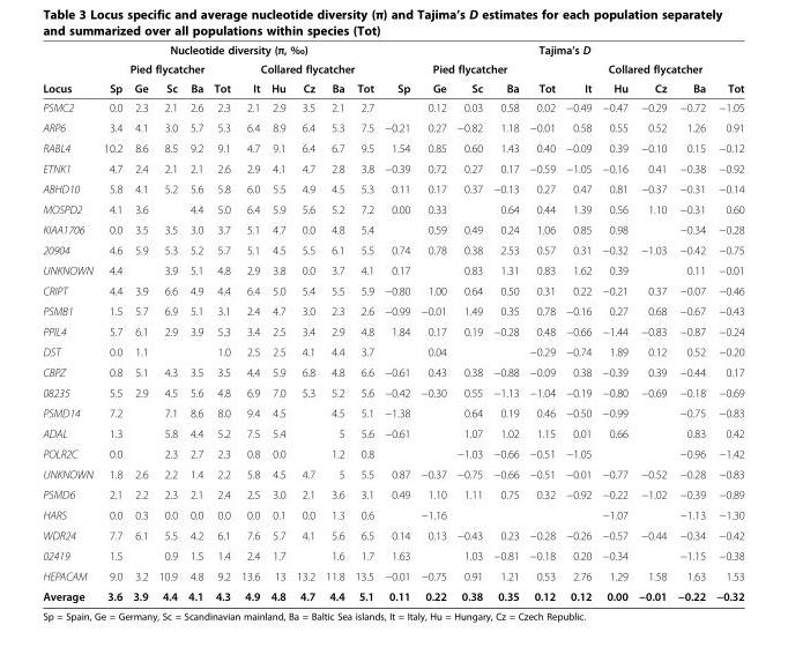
<table><thead><tr><td rowspan="3">Locus</td><td colspan="10">Nucleotide diversity (π, ‰)</td><td colspan="10">Tajima’s D</td></tr><tr><td colspan="5">Pied flycatcher</td><td colspan="5">Collared flycatcher</td><td colspan="5">Pied flycatcher</td><td colspan="5">Collared flycatcher</td></tr><tr><td>Sp</td><td>Ge</td><td>Sc</td><td>Ba</td><td>Tot</td><td>It</td><td>Hu</td><td>Cz</td><td>Ba</td><td>Tot</td><td>Sp</td><td>Ge</td><td>Sc</td><td>Ba</td><td>Tot</td><td>It</td><td>Hu</td><td>Cz</td><td>Ba</td><td>Tot</td></tr></thead><tbody><tr><td>PSMC2</td><td>0.0</td><td>2.3</td><td>2.1</td><td>2.6</td><td>2.3</td><td>2.1</td><td>2.9</td><td>3.5</td><td>2.1</td><td>2.7</td><td></td><td>0.12</td><td>0.03</td><td>0.58</td><td>0.02</td><td>−0.49</td><td>−0.47</td><td>−0.29</td><td>−0.72</td><td>−1.05</td></tr><tr><td>ARP6</td><td>3.4</td><td>4.1</td><td>3.0</td><td>5.7</td><td>5.3</td><td>6.4</td><td>8.9</td><td>6.4</td><td>5.3</td><td>7.5</td><td>−0.21</td><td>0.27</td><td>−0.82</td><td>1.18</td><td>−0.01</td><td>0.58</td><td>0.55</td><td>0.52</td><td>1.26</td><td>0.91</td></tr><tr><td>RABL4</td><td>10.2</td><td>8.6</td><td>8.5</td><td>9.2</td><td>9.1</td><td>4.7</td><td>9.1</td><td>6.4</td><td>6.7</td><td>9.5</td><td>1.54</td><td>0.85</td><td>0.60</td><td>1.43</td><td>0.40</td><td>−0.09</td><td>0.39</td><td>−0.10</td><td>0.15</td><td>−0.12</td></tr><tr><td>ETNK1</td><td>4.7</td><td>2.4</td><td>2.1</td><td>2.1</td><td>2.6</td><td>2.9</td><td>4.1</td><td>4.7</td><td>2.8</td><td>3.8</td><td>−0.39</td><td>0.72</td><td>0.27</td><td>0.17</td><td>−0.59</td><td>−1.05</td><td>−0.16</td><td>0.41</td><td>−0.38</td><td>−0.92</td></tr><tr><td>ABHD10</td><td>5.8</td><td>4.1</td><td>5.2</td><td>5.6</td><td>5.8</td><td>6.0</td><td>5.5</td><td>4.9</td><td>4.5</td><td>5.3</td><td>0.11</td><td>0.17</td><td>0.37</td><td>−0.13</td><td>0.27</td><td>0.47</td><td>0.81</td><td>−0.37</td><td>−0.31</td><td>−0.14</td></tr><tr><td>MOSPD2</td><td>4.1</td><td>3.6</td><td></td><td>4.4</td><td>5.0</td><td>6.4</td><td>5.9</td><td>5.6</td><td>5.2</td><td>7.2</td><td>0.00</td><td>0.33</td><td></td><td>0.64</td><td>0.44</td><td>1.39</td><td>0.56</td><td>1.10</td><td>−0.31</td><td>0.60</td></tr><tr><td>KIAA1706</td><td>0.0</td><td>3.5</td><td>3.5</td><td>3.0</td><td>3.7</td><td>5.1</td><td>4.7</td><td>0.0</td><td>4.8</td><td>5.4</td><td></td><td>0.59</td><td>0.49</td><td>0.24</td><td>1.06</td><td>0.85</td><td>0.98</td><td></td><td>−0.34</td><td>−0.28</td></tr><tr><td>20904</td><td>4.6</td><td>5.9</td><td>5.3</td><td>5.2</td><td>5.7</td><td>5.1</td><td>4.5</td><td>5.5</td><td>6.1</td><td>5.5</td><td>0.74</td><td>0.78</td><td>0.38</td><td>2.53</td><td>0.57</td><td>0.31</td><td>−0.32</td><td>−1.03</td><td>−0.42</td><td>−0.75</td></tr><tr><td>UNKNOWN</td><td>4.4</td><td></td><td>3.9</td><td>5.1</td><td>4.8</td><td>2.9</td><td>3.8</td><td>0.0</td><td>3.7</td><td>4.1</td><td>0.17</td><td></td><td>0.83</td><td>1.31</td><td>0.83</td><td>1.62</td><td>0.39</td><td></td><td>0.11</td><td>−0.01</td></tr><tr><td>CRIPT</td><td>4.4</td><td>3.9</td><td>6.6</td><td>4.9</td><td>4.4</td><td>6.4</td><td>5.0</td><td>5.4</td><td>5.5</td><td>5.9</td><td>−0.80</td><td>1.00</td><td>0.64</td><td>0.50</td><td>0.31</td><td>0.22</td><td>−0.21</td><td>0.37</td><td>−0.07</td><td>−0.46</td></tr><tr><td>PSMB1</td><td>1.5</td><td>5.7</td><td>6.9</td><td>5.1</td><td>3.1</td><td>2.4</td><td>4.7</td><td>3.0</td><td>2.3</td><td>2.6</td><td>−0.99</td><td>−0.01</td><td>1.49</td><td>0.35</td><td>0.78</td><td>−0.16</td><td>0.27</td><td>0.68</td><td>−0.67</td><td>−0.43</td></tr><tr><td>PPIL4</td><td>5.7</td><td>6.1</td><td>2.9</td><td>3.9</td><td>5.3</td><td>3.4</td><td>2.5</td><td>3.4</td><td>2.9</td><td>4.8</td><td>1.84</td><td>0.17</td><td>0.19</td><td>−0.28</td><td>0.48</td><td>−0.66</td><td>−1.44</td><td>−0.83</td><td>−0.87</td><td>−0.24</td></tr><tr><td>DST</td><td>0.0</td><td>1.1</td><td></td><td></td><td>1.0</td><td>2.5</td><td>2.5</td><td>4.1</td><td>4.4</td><td>3.7</td><td></td><td>0.04</td><td></td><td></td><td>−0.29</td><td>−0.74</td><td>1.89</td><td>0.12</td><td>0.52</td><td>−0.20</td></tr><tr><td>CBPZ</td><td>0.8</td><td>5.1</td><td>4.3</td><td>3.5</td><td>3.5</td><td>4.4</td><td>5.9</td><td>6.8</td><td>4.8</td><td>6.6</td><td>−0.61</td><td>0.43</td><td>0.38</td><td>−0.88</td><td>−0.09</td><td>0.38</td><td>−0.39</td><td>0.39</td><td>−0.44</td><td>0.17</td></tr><tr><td>08235</td><td>5.5</td><td>2.9</td><td>4.5</td><td>5.6</td><td>4.8</td><td>6.9</td><td>7.0</td><td>5.3</td><td>5.2</td><td>5.6</td><td>−0.42</td><td>−0.30</td><td>0.55</td><td>−1.13</td><td>−1.04</td><td>−0.19</td><td>−0.80</td><td>−0.69</td><td>−0.18</td><td>−0.69</td></tr><tr><td>PSMD14</td><td>7.2</td><td></td><td>7.1</td><td>8.6</td><td>8.0</td><td>9.4</td><td>4.5</td><td></td><td>4.5</td><td>5.1</td><td>−1.38</td><td></td><td>0.64</td><td>0.19</td><td>0.46</td><td>−0.50</td><td>−0.99</td><td></td><td>−0.75</td><td>−0.83</td></tr><tr><td>ADAL</td><td>1.3</td><td></td><td>5.8</td><td>4.4</td><td>5.2</td><td>7.5</td><td>5.4</td><td></td><td>5</td><td>5.6</td><td>−0.61</td><td></td><td>1.07</td><td>1.02</td><td>1.15</td><td>0.01</td><td>0.66</td><td></td><td>0.83</td><td>0.42</td></tr><tr><td>POLR2C</td><td>0.0</td><td></td><td>2.3</td><td>2.7</td><td>2.3</td><td>0.8</td><td>0.0</td><td></td><td>1.2</td><td>0.8</td><td></td><td></td><td>−1.03</td><td>−0.66</td><td>−0.51</td><td>−1.05</td><td></td><td></td><td>−0.96</td><td>−1.42</td></tr><tr><td>UNKNOWN</td><td>1.8</td><td>2.6</td><td>2.2</td><td>1.4</td><td>2.2</td><td>5.8</td><td>4.5</td><td>4.7</td><td>5</td><td>5.5</td><td>0.87</td><td>−0.37</td><td>−0.75</td><td>−0.66</td><td>−0.51</td><td>−0.01</td><td>−0.77</td><td>−0.52</td><td>−0.28</td><td>−0.83</td></tr><tr><td>PSMD6</td><td>2.1</td><td>2.2</td><td>2.3</td><td>2.1</td><td>2.4</td><td>2.5</td><td>3.0</td><td>2.1</td><td>3.6</td><td>3.1</td><td>0.49</td><td>1.10</td><td>1.11</td><td>0.75</td><td>0.32</td><td>−0.92</td><td>−0.22</td><td>−1.02</td><td>−0.39</td><td>−0.89</td></tr><tr><td>HARS</td><td>0.0</td><td>0.3</td><td>0.0</td><td>0.0</td><td>0.0</td><td>0.0</td><td>0.1</td><td>0.0</td><td>1.3</td><td>0.6</td><td></td><td>−1.16</td><td></td><td></td><td></td><td></td><td>−1.07</td><td></td><td>−1.13</td><td>−1.30</td></tr><tr><td>WDR24</td><td>7.7</td><td>6.1</td><td>5.5</td><td>4.2</td><td>6.1</td><td>7.6</td><td>5.7</td><td>4.1</td><td>5.6</td><td>6.5</td><td>0.14</td><td>0.13</td><td>−0.43</td><td>0.23</td><td>−0.28</td><td>−0.26</td><td>−0.57</td><td>−0.44</td><td>−0.34</td><td>−0.42</td></tr><tr><td>02419</td><td>1.5</td><td></td><td>0.9</td><td>1.5</td><td>1.4</td><td>2.4</td><td>1.7</td><td></td><td>1.6</td><td>1.7</td><td>1.63</td><td></td><td>1.03</td><td>−0.81</td><td>−0.18</td><td>0.20</td><td>−0.34</td><td></td><td>−1.15</td><td>−0.38</td></tr><tr><td>HEPACAM</td><td>9.0</td><td>3.2</td><td>10.9</td><td>4.8</td><td>9.2</td><td>13.6</td><td>13</td><td>13.2</td><td>11.8</td><td>13.5</td><td>−0.01</td><td>−0.75</td><td>0.91</td><td>1.21</td><td>0.53</td><td>2.76</td><td>1.29</td><td>1.58</td><td>1.63</td><td>1.53</td></tr><tr><td>Average</td><td>3.6</td><td>3.9</td><td>4.4</td><td>4.1</td><td>4.3</td><td>4.9</td><td>4.8</td><td>4.7</td><td>4.4</td><td>5.1</td><td>0.11</td><td>0.22</td><td>0.38</td><td>0.35</td><td>0.12</td><td>0.12</td><td>0.00</td><td>−0.01</td><td>−0.22</td><td>−0.32</td></tr></tbody></table>